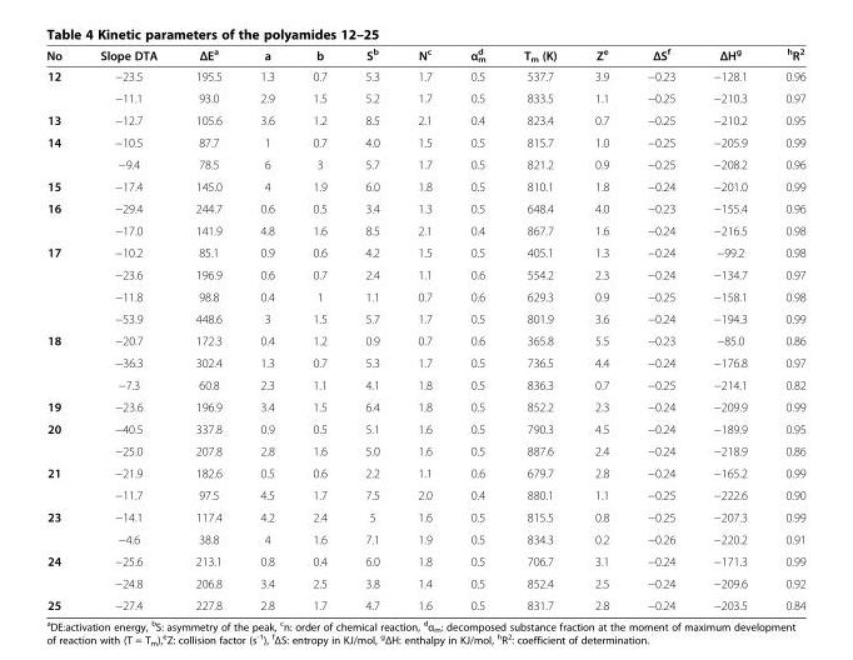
<table><thead><tr><td>No</td><td>Slope DTA</td><td>ΔE<sup>a</sup></td><td>a</td><td>b</td><td>S<sup>b</sup></td><td>N<sup>c</sup></td><td>α<sub>m</sub> <sup>d</sup></td><td>T<sub>m</sub> (K)</td><td>Z<sup>e</sup></td><td>ΔS<sup>f</sup></td><td>ΔH<sup>g</sup></td><td><sup>h</sup>R<sup>2</sup></td></tr></thead><tbody><tr><td rowspan="2">12</td><td>−23.5</td><td>195.5</td><td>1.3</td><td>0.7</td><td>5.3</td><td>1.7</td><td>0.5</td><td>537.7</td><td>3.9</td><td>−0.23</td><td>−128.1</td><td>0.96</td></tr><tr><td>−11.1</td><td>93.0</td><td>2.9</td><td>1.5</td><td>5.2</td><td>1.7</td><td>0.5</td><td>833.5</td><td>1.1</td><td>−0.25</td><td>−210.3</td><td>0.97</td></tr><tr><td>13</td><td>−12.7</td><td>105.6</td><td>3.6</td><td>1.2</td><td>8.5</td><td>2.1</td><td>0.4</td><td>823.4</td><td>0.7</td><td>−0.25</td><td>−210.2</td><td>0.95</td></tr><tr><td rowspan="2">14</td><td>−10.5</td><td>87.7</td><td>1</td><td>0.7</td><td>4.0</td><td>1.5</td><td>0.5</td><td>815.7</td><td>1.0</td><td>−0.25</td><td>−205.9</td><td>0.99</td></tr><tr><td>−9.4</td><td>78.5</td><td>6</td><td>3</td><td>5.7</td><td>1.7</td><td>0.5</td><td>821.2</td><td>0.9</td><td>−0.25</td><td>−208.2</td><td>0.96</td></tr><tr><td>15</td><td>−17.4</td><td>145.0</td><td>4</td><td>1.9</td><td>6.0</td><td>1.8</td><td>0.5</td><td>810.1</td><td>1.8</td><td>−0.24</td><td>−201.0</td><td>0.99</td></tr><tr><td rowspan="2">16</td><td>−29.4</td><td>244.7</td><td>0.6</td><td>0.5</td><td>3.4</td><td>1.3</td><td>0.5</td><td>648.4</td><td>4.0</td><td>−0.23</td><td>−155.4</td><td>0.96</td></tr><tr><td>−17.0</td><td>141.9</td><td>4.8</td><td>1.6</td><td>8.5</td><td>2.1</td><td>0.4</td><td>867.7</td><td>1.6</td><td>−0.24</td><td>−216.5</td><td>0.98</td></tr><tr><td rowspan="4">17</td><td>−10.2</td><td>85.1</td><td>0.9</td><td>0.6</td><td>4.2</td><td>1.5</td><td>0.5</td><td>405.1</td><td>1.3</td><td>−0.24</td><td>−99.2</td><td>0.98</td></tr><tr><td>−23.6</td><td>196.9</td><td>0.6</td><td>0.7</td><td>2.4</td><td>1.1</td><td>0.6</td><td>554.2</td><td>2.3</td><td>−0.24</td><td>−134.7</td><td>0.97</td></tr><tr><td>−11.8</td><td>98.8</td><td>0.4</td><td>1</td><td>1.1</td><td>0.7</td><td>0.6</td><td>629.3</td><td>0.9</td><td>−0.25</td><td>−158.1</td><td>0.98</td></tr><tr><td>−53.9</td><td>448.6</td><td>3</td><td>1.5</td><td>5.7</td><td>1.7</td><td>0.5</td><td>801.9</td><td>3.6</td><td>−0.24</td><td>−194.3</td><td>0.99</td></tr><tr><td rowspan="3">18</td><td>−20.7</td><td>172.3</td><td>0.4</td><td>1.2</td><td>0.9</td><td>0.7</td><td>0.6</td><td>365.8</td><td>5.5</td><td>−0.23</td><td>−85.0</td><td>0.86</td></tr><tr><td>−36.3</td><td>302.4</td><td>1.3</td><td>0.7</td><td>5.3</td><td>1.7</td><td>0.5</td><td>736.5</td><td>4.4</td><td>−0.24</td><td>−176.8</td><td>0.97</td></tr><tr><td>−7.3</td><td>60.8</td><td>2.3</td><td>1.1</td><td>4.1</td><td>1.8</td><td>0.5</td><td>836.3</td><td>0.7</td><td>−0.25</td><td>−214.1</td><td>0.82</td></tr><tr><td>19</td><td>−23.6</td><td>196.9</td><td>3.4</td><td>1.5</td><td>6.4</td><td>1.8</td><td>0.5</td><td>852.2</td><td>2.3</td><td>−0.24</td><td>−209.9</td><td>0.99</td></tr><tr><td rowspan="2">20</td><td>−40.5</td><td>337.8</td><td>0.9</td><td>0.5</td><td>5.1</td><td>1.6</td><td>0.5</td><td>790.3</td><td>4.5</td><td>−0.24</td><td>−189.9</td><td>0.95</td></tr><tr><td>−25.0</td><td>207.8</td><td>2.8</td><td>1.6</td><td>5.0</td><td>1.6</td><td>0.5</td><td>887.6</td><td>2.4</td><td>−0.24</td><td>−218.9</td><td>0.86</td></tr><tr><td rowspan="2">21</td><td>−21.9</td><td>182.6</td><td>0.5</td><td>0.6</td><td>2.2</td><td>1.1</td><td>0.6</td><td>679.7</td><td>2.8</td><td>−0.24</td><td>−165.2</td><td>0.99</td></tr><tr><td>−11.7</td><td>97.5</td><td>4.5</td><td>1.7</td><td>7.5</td><td>2.0</td><td>0.4</td><td>880.1</td><td>1.1</td><td>−0.25</td><td>−222.6</td><td>0.90</td></tr><tr><td rowspan="2">23</td><td>−14.1</td><td>117.4</td><td>4.2</td><td>2.4</td><td>5</td><td>1.6</td><td>0.5</td><td>815.5</td><td>0.8</td><td>−0.25</td><td>−207.3</td><td>0.99</td></tr><tr><td>−4.6</td><td>38.8</td><td>4</td><td>1.6</td><td>7.1</td><td>1.9</td><td>0.5</td><td>834.3</td><td>0.2</td><td>−0.26</td><td>−220.2</td><td>0.91</td></tr><tr><td rowspan="2">24</td><td>−25.6</td><td>213.1</td><td>0.8</td><td>0.4</td><td>6.0</td><td>1.8</td><td>0.5</td><td>706.7</td><td>3.1</td><td>−0.24</td><td>−171.3</td><td>0.99</td></tr><tr><td>−24.8</td><td>206.8</td><td>3.4</td><td>2.5</td><td>3.8</td><td>1.4</td><td>0.5</td><td>852.4</td><td>2.5</td><td>−0.24</td><td>−209.6</td><td>0.92</td></tr><tr><td>25</td><td>−27.4</td><td>227.8</td><td>2.8</td><td>1.7</td><td>4.7</td><td>1.6</td><td>0.5</td><td>831.7</td><td>2.8</td><td>−0.24</td><td>−203.5</td><td>0.84</td></tr></tbody></table>